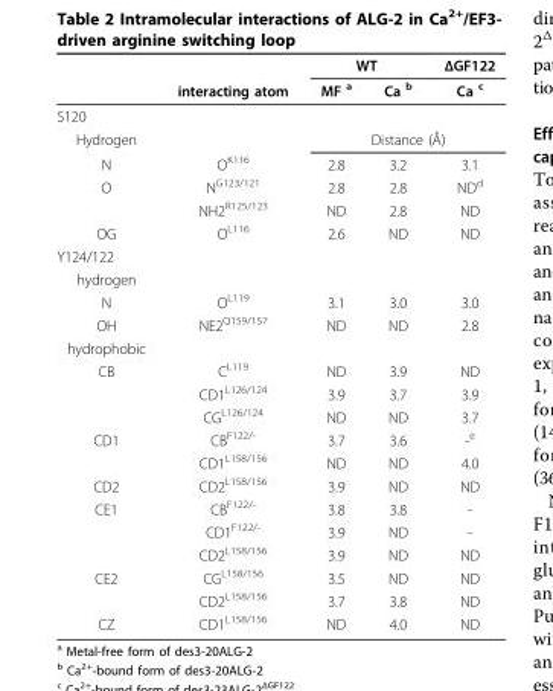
<table><thead><tr><td rowspan="2"></td><td rowspan="2">interacting atom</td><td colspan="2">WT</td><td rowspan="2">ΔGF122 Ca <sup>c</sup></td></tr><tr><td>MF <sup>a</sup></td><td>Ca <sup>b</sup></td></tr></thead><tbody><tr><td colspan="5">S120</td></tr><tr><td>Hydrogen</td><td></td><td colspan="3">Distance (Å)</td></tr><tr><td>N</td><td>O<sup>K116</sup></td><td>2.8</td><td>3.2</td><td>3.1</td></tr><tr><td rowspan="2">O</td><td>N<sup>G123/121</sup></td><td>2.8</td><td>2.8</td><td>ND<sup>d</sup></td></tr><tr><td>NH2<sup>R125/123</sup></td><td>ND</td><td>2.8</td><td>ND</td></tr><tr><td>OG</td><td>O<sup>L116</sup></td><td>2.6</td><td>ND</td><td>ND</td></tr><tr><td colspan="5">Y124/122</td></tr><tr><td colspan="5">hydrogen</td></tr><tr><td>N</td><td>O<sup>L119</sup></td><td>3.1</td><td>3.0</td><td>3.0</td></tr><tr><td>OH</td><td>NE2<sup>Q159/157</sup></td><td>ND</td><td>ND</td><td>2.8</td></tr><tr><td colspan="5">hydrophobic</td></tr><tr><td rowspan="3">CB</td><td>C<sup>L119</sup></td><td>ND</td><td>3.9</td><td>ND</td></tr><tr><td>CD1<sup>L126/124</sup></td><td>3.9</td><td>3.7</td><td>3.9</td></tr><tr><td>CG<sup>L126/124</sup></td><td>ND</td><td>ND</td><td>3.7</td></tr><tr><td rowspan="2">CD1</td><td>CB<sup>F122/-</sup></td><td>3.7</td><td>3.6</td><td>-<sup>e</sup></td></tr><tr><td>CD1<sup>L158/156</sup></td><td>ND</td><td>ND</td><td>4.0</td></tr><tr><td>CD2</td><td>CD2<sup>L158/156</sup></td><td>3.9</td><td>ND</td><td>ND</td></tr><tr><td rowspan="3">CE1</td><td>CB<sup>F122/-</sup></td><td>3.8</td><td>3.8</td><td>-</td></tr><tr><td>CD1<sup>F122/-</sup></td><td>3.9</td><td>ND</td><td>-</td></tr><tr><td>CD2<sup>L158/156</sup></td><td>3.9</td><td>ND</td><td>ND</td></tr><tr><td rowspan="2">CE2</td><td>CG<sup>L158/156</sup></td><td>3.5</td><td>ND</td><td>ND</td></tr><tr><td>CD2<sup>L158/156</sup></td><td>3.7</td><td>3.8</td><td>ND</td></tr><tr><td>CZ</td><td>CD1<sup>L158/156</sup></td><td>ND</td><td>4.0</td><td>ND</td></tr></tbody></table>